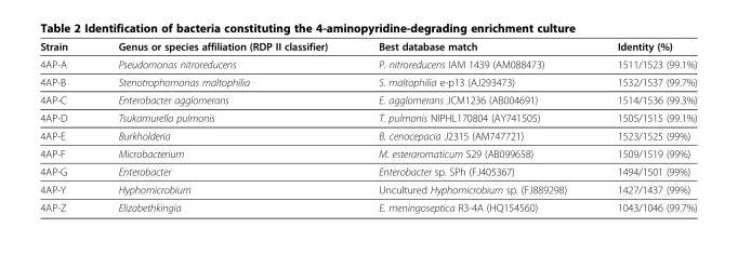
<table><thead><tr><td>Strain</td><td>Genus or species affiliation (RDP II classifier)</td><td>Best database match</td><td>Identity (%)</td></tr></thead><tbody><tr><td>4AP-A</td><td>Pseudomonas nitroreducens</td><td>P. nitroreducens IAM 1439 (AM088473)</td><td>1511/1523 (99.1%)</td></tr><tr><td>4AP-B</td><td>Stenotrophomonas maltophilia</td><td>S. maltophilia e-p13 (AJ293473)</td><td>1532/1537 (99.7%)</td></tr><tr><td>4AP-C</td><td>Enterobacter agglomerans</td><td>E. agglomerans JCM1236 (AB004691)</td><td>1514/1536 (99.3%)</td></tr><tr><td>4AP-D</td><td>Tsukamurella pulmonis</td><td>T. pulmonis NIPHL170804 (AY741505)</td><td>1505/1515 (99.1%)</td></tr><tr><td>4AP-E</td><td>Burkholderia</td><td>B. cenocepacia J2315 (AM747721)</td><td>1523/1525 (99%)</td></tr><tr><td>4AP-F</td><td>Microbacterium</td><td>M. esteraromaticum S29 (AB099658)</td><td>1509/1519 (99%)</td></tr><tr><td>4AP-G</td><td>Enterobacter</td><td>Enterobacter sp. SPh (FJ405367)</td><td>1494/1501 (99%)</td></tr><tr><td>4AP-Y</td><td>Hyphomicrobium</td><td>Uncultured Hyphomicrobium sp. (FJ889298)</td><td>1427/1437 (99%)</td></tr><tr><td>4AP-Z</td><td>Elizabethkingia</td><td>E. meningoseptica R3-4A (HQ154560)</td><td>1043/1046 (99.7%)</td></tr></tbody></table>